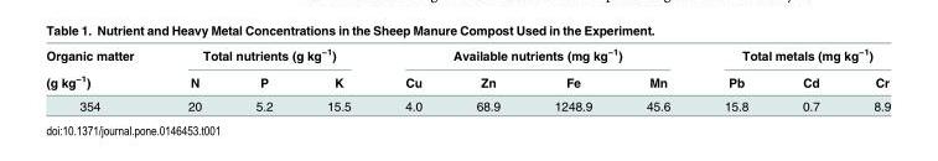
<table><thead><tr><td rowspan="2">Organic matter (g kg<sup>−1</sup>)</td><td colspan="3">Total nutrients (g kg<sup>−1</sup>)</td><td colspan="4">Available nutrients (mg kg<sup>−1</sup>)</td><td colspan="3">Total metals (mg kg<sup>−1</sup>)</td></tr><tr><td>N</td><td>P</td><td>K</td><td>Cu</td><td>Zn</td><td>Fe</td><td>Mn</td><td>Pb</td><td>Cd</td><td>Cr</td></tr></thead><tbody><tr><td>354</td><td>20</td><td>5.2</td><td>15.5</td><td>4.0</td><td>68.9</td><td>1248.9</td><td>45.6</td><td>15.8</td><td>0.7</td><td>8.9</td></tr></tbody></table>